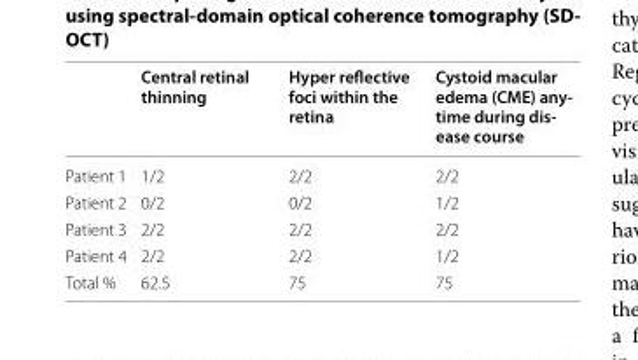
<table><thead><tr><td></td><td>Central retinal thinning</td><td>Hyper reflective foci within the retina</td><td>Cystoid macular edema (CME) any‑ time during dis‑ ease course</td></tr></thead><tbody><tr><td>Patient 1</td><td>1/2</td><td>2/2</td><td>2/2</td></tr><tr><td>Patient 2</td><td>0/2</td><td>0/2</td><td>1/2</td></tr><tr><td>Patient 3</td><td>2/2</td><td>2/2</td><td>2/2</td></tr><tr><td>Patient 4</td><td>2/2</td><td>2/2</td><td>1/2</td></tr><tr><td>Total %</td><td>62.5</td><td>75</td><td>75</td></tr></tbody></table>